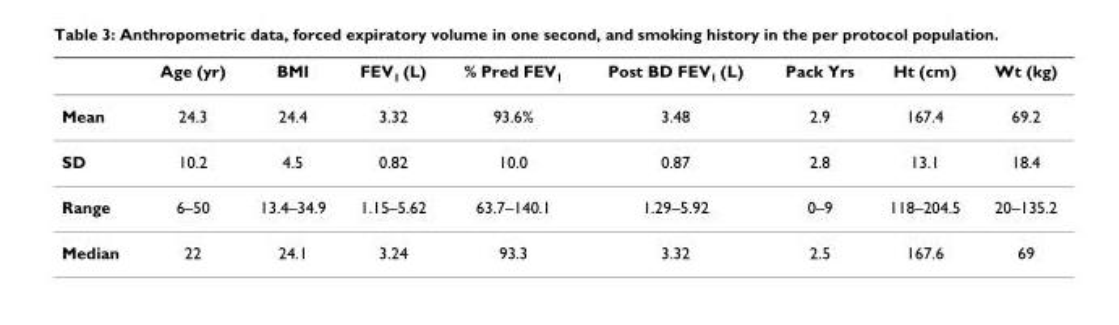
<table><thead><tr><td></td><td>Age (yr)</td><td>BMI</td><td>FEV<sub>1</sub> (L)</td><td>% Pred FEV<sub>1</sub></td><td>Post BD FEV<sub>1</sub> (L)</td><td>Pack Yrs</td><td>Ht (cm)</td><td>Wt (kg)</td></tr></thead><tbody><tr><td>Mean</td><td>24.3</td><td>24.4</td><td>3.32</td><td>93.6%</td><td>3.48</td><td>2.9</td><td>167.4</td><td>69.2</td></tr><tr><td>SD</td><td>10.2</td><td>4.5</td><td>0.82</td><td>10.0</td><td>0.87</td><td>2.8</td><td>13.1</td><td>18.4</td></tr><tr><td>Range</td><td>6–50</td><td>13.4–34.9</td><td>1.15–5.62</td><td>63.7–140.1</td><td>1.29–5.92</td><td>0–9</td><td>118–204.5</td><td>20–135.2</td></tr><tr><td>Median</td><td>22</td><td>24.1</td><td>3.24</td><td>93.3</td><td>3.32</td><td>2.5</td><td>167.6</td><td>69</td></tr></tbody></table>